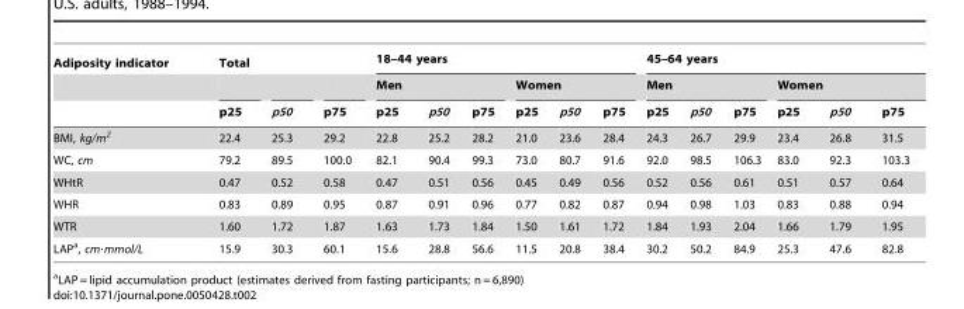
<table><thead><tr><td rowspan="3">Adiposity indicator</td><td colspan="3">Total</td><td colspan="6">18–44 years</td><td colspan="6">45–64 years</td></tr><tr><td rowspan="2">p25</td><td rowspan="2">p50</td><td rowspan="2">p75</td><td colspan="3">Men</td><td colspan="3">Women</td><td colspan="3">Men</td><td colspan="3">Women</td></tr><tr><td>p25</td><td>p50</td><td>p75</td><td>p25</td><td>p50</td><td>p75</td><td>p25</td><td>p50</td><td>p75</td><td>p25</td><td>p50</td><td>p75</td></tr></thead><tbody><tr><td>BMI, kg/m<sup>2</sup></td><td>22.4</td><td>25.3</td><td>29.2</td><td>22.8</td><td>25.2</td><td>28.2</td><td>21.0</td><td>23.6</td><td>28.4</td><td>24.3</td><td>26.7</td><td>29.9</td><td>23.4</td><td>26.8</td><td>31.5</td></tr><tr><td>WC, cm</td><td>79.2</td><td>89.5</td><td>100.0</td><td>82.1</td><td>90.4</td><td>99.3</td><td>73.0</td><td>80.7</td><td>91.6</td><td>92.0</td><td>98.5</td><td>106.3</td><td>83.0</td><td>92.3</td><td>103.3</td></tr><tr><td>WHtR</td><td>0.47</td><td>0.52</td><td>0.58</td><td>0.47</td><td>0.51</td><td>0.56</td><td>0.45</td><td>0.49</td><td>0.56</td><td>0.52</td><td>0.56</td><td>0.61</td><td>0.51</td><td>0.57</td><td>0.64</td></tr><tr><td>WHR</td><td>0.83</td><td>0.89</td><td>0.95</td><td>0.87</td><td>0.91</td><td>0.96</td><td>0.77</td><td>0.82</td><td>0.87</td><td>0.94</td><td>0.98</td><td>1.03</td><td>0.83</td><td>0.88</td><td>0.94</td></tr><tr><td>WTR</td><td>1.60</td><td>1.72</td><td>1.87</td><td>1.63</td><td>1.73</td><td>1.84</td><td>1.50</td><td>1.61</td><td>1.72</td><td>1.84</td><td>1.93</td><td>2.04</td><td>1.66</td><td>1.79</td><td>1.95</td></tr><tr><td>LAP<sup>a</sup>, cm·mmol/L</td><td>15.9</td><td>30.3</td><td>60.1</td><td>15.6</td><td>28.8</td><td>56.6</td><td>11.5</td><td>20.8</td><td>38.4</td><td>30.2</td><td>50.2</td><td>84.9</td><td>25.3</td><td>47.6</td><td>82.8</td></tr></tbody></table>